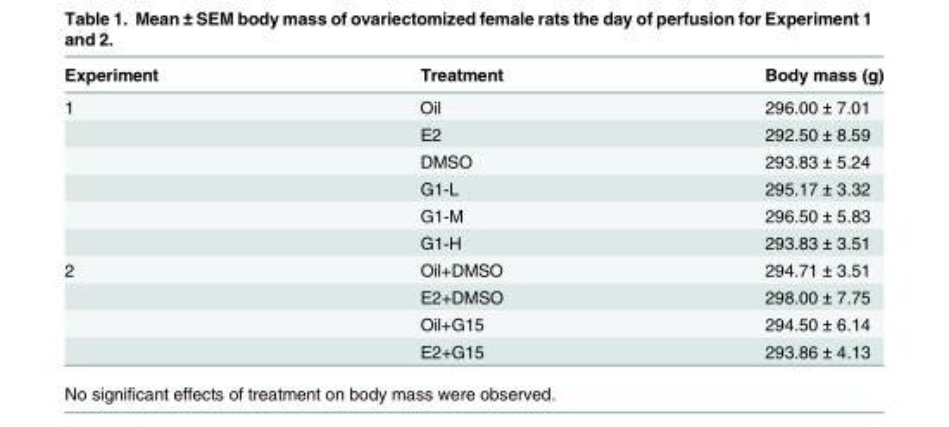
<table><thead><tr><td>Experiment</td><td>Treatment</td><td>Body mass (g)</td></tr></thead><tbody><tr><td rowspan="6">1</td><td>Oil</td><td>296.00 ± 7.01</td></tr><tr><td>E2</td><td>292.50 ± 8.59</td></tr><tr><td>DMSO</td><td>293.83 ± 5.24</td></tr><tr><td>G1-L</td><td>295.17 ± 3.32</td></tr><tr><td>G1-M</td><td>296.50 ± 5.83</td></tr><tr><td>G1-H</td><td>293.83 ± 3.51</td></tr><tr><td rowspan="4">2</td><td>Oil+DMSO</td><td>294.71 ± 3.51</td></tr><tr><td>E2+DMSO</td><td>298.00 ± 7.75</td></tr><tr><td>Oil+G15</td><td>294.50 ± 6.14</td></tr><tr><td>E2+G15</td><td>293.86 ± 4.13</td></tr></tbody></table>